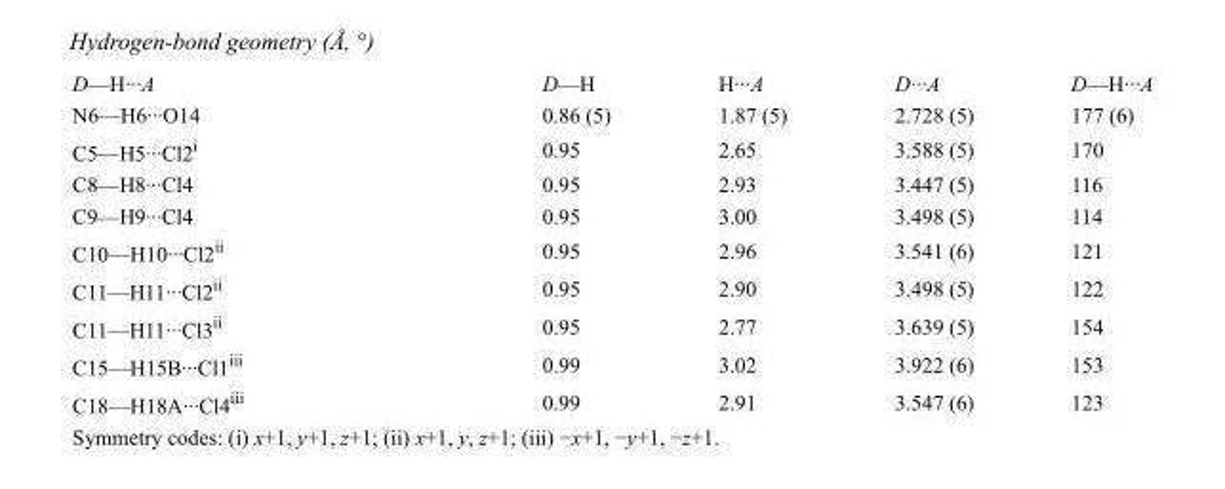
<table><tbody><tr><td>D—H···A</td><td>D—H</td><td>H···A</td><td>D···A</td><td>D—H···A</td></tr><tr><td>N6—H6···O14</td><td>0.86 (5)</td><td>1.87 (5)</td><td>2.728 (5)</td><td>177 (6)</td></tr><tr><td>C5—H5···Cl2<sup>i</sup></td><td>0.95</td><td>2.65</td><td>3.588 (5)</td><td>170</td></tr><tr><td>C8—H8···Cl4</td><td>0.95</td><td>2.93</td><td>3.447 (5)</td><td>116</td></tr><tr><td>C9—H9···Cl4</td><td>0.95</td><td>3.00</td><td>3.498 (5)</td><td>114</td></tr><tr><td>C10—H10···Cl2<sup>ii</sup></td><td>0.95</td><td>2.96</td><td>3.541 (6)</td><td>121</td></tr><tr><td>C11—H11···Cl2<sup>ii</sup></td><td>0.95</td><td>2.90</td><td>3.498 (5)</td><td>122</td></tr><tr><td>C11—H11···Cl3<sup>ii</sup></td><td>0.95</td><td>2.77</td><td>3.639 (5)</td><td>154</td></tr><tr><td>C15—H15B···Cl1<sup>iii</sup></td><td>0.99</td><td>3.02</td><td>3.922 (6)</td><td>153</td></tr><tr><td>C18—H18A···Cl4<sup>iii</sup></td><td>0.99</td><td>2.91</td><td>3.547 (6)</td><td>123</td></tr></tbody></table>